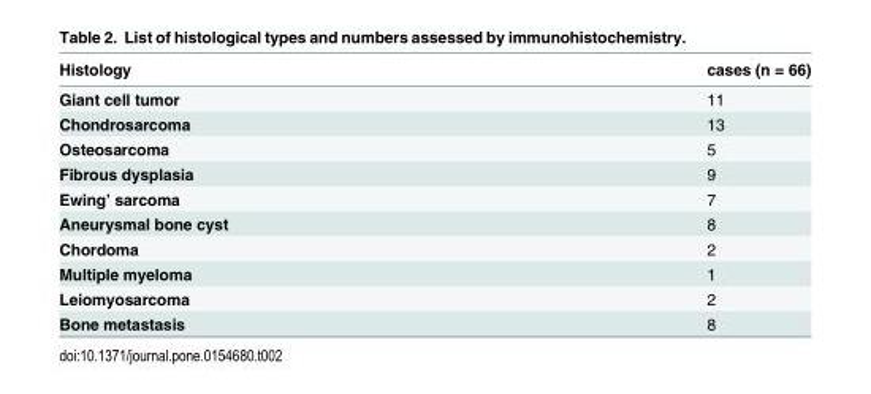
<table><thead><tr><td>Histology</td><td>cases (n = 66)</td></tr></thead><tbody><tr><td>Giant cell tumor</td><td>11</td></tr><tr><td>Chondrosarcoma</td><td>13</td></tr><tr><td>Osteosarcoma</td><td>5</td></tr><tr><td>Fibrous dysplasia</td><td>9</td></tr><tr><td>Ewing’ sarcoma</td><td>7</td></tr><tr><td>Aneurysmal bone cyst</td><td>8</td></tr><tr><td>Chordoma</td><td>2</td></tr><tr><td>Multiple myeloma</td><td>1</td></tr><tr><td>Leiomyosarcoma</td><td>2</td></tr><tr><td>Bone metastasis</td><td>8</td></tr></tbody></table>